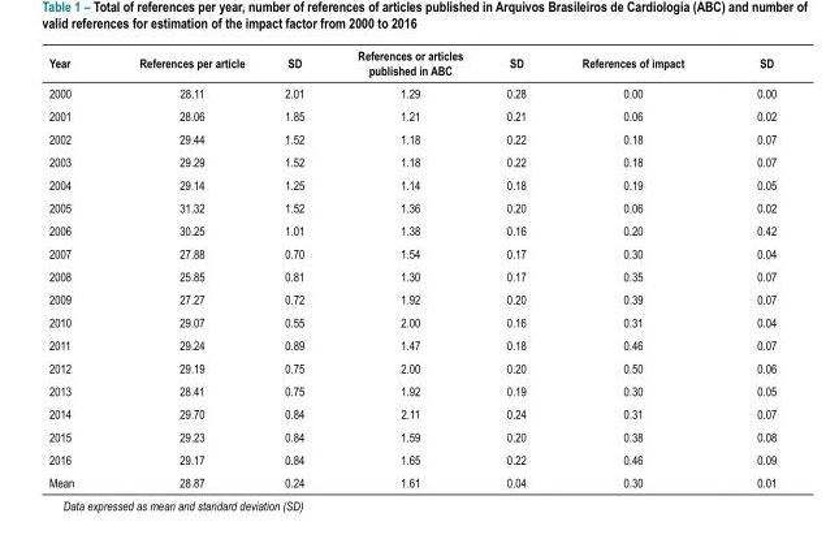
<table><thead><tr><td>Year</td><td>References per article</td><td>SD</td><td>References or articles published in ABC</td><td>SD</td><td>References of impact</td><td>SD</td></tr></thead><tbody><tr><td>2000</td><td>28.11</td><td>2.01</td><td>1.29</td><td>0.28</td><td>0.00</td><td>0.00</td></tr><tr><td>2001</td><td>28.06</td><td>1.85</td><td>1.21</td><td>0.21</td><td>0.06</td><td>0.02</td></tr><tr><td>2002</td><td>29.44</td><td>1.52</td><td>1.18</td><td>0.22</td><td>0.18</td><td>0.07</td></tr><tr><td>2003</td><td>29.29</td><td>1.52</td><td>1.18</td><td>0.22</td><td>0.18</td><td>0.07</td></tr><tr><td>2004</td><td>29.14</td><td>1.25</td><td>1.14</td><td>0.18</td><td>0.19</td><td>0.05</td></tr><tr><td>2005</td><td>31.32</td><td>1.52</td><td>1.36</td><td>0.20</td><td>0.06</td><td>0.02</td></tr><tr><td>2006</td><td>30.25</td><td>1.01</td><td>1.38</td><td>0.16</td><td>0.20</td><td>0.42</td></tr><tr><td>2007</td><td>27.88</td><td>0.70</td><td>1.54</td><td>0.17</td><td>0.30</td><td>0.04</td></tr><tr><td>2008</td><td>25.85</td><td>0.81</td><td>1.30</td><td>0.17</td><td>0.35</td><td>0.07</td></tr><tr><td>2009</td><td>27.27</td><td>0.72</td><td>1.92</td><td>0.20</td><td>0.39</td><td>0.07</td></tr><tr><td>2010</td><td>29.07</td><td>0.55</td><td>2.00</td><td>0.16</td><td>0.31</td><td>0.04</td></tr><tr><td>2011</td><td>29.24</td><td>0.89</td><td>1.47</td><td>0.18</td><td>0.46</td><td>0.07</td></tr><tr><td>2012</td><td>29.19</td><td>0.75</td><td>2.00</td><td>0.20</td><td>0.50</td><td>0.06</td></tr><tr><td>2013</td><td>28.41</td><td>0.75</td><td>1.92</td><td>0.19</td><td>0.30</td><td>0.05</td></tr><tr><td>2014</td><td>29.70</td><td>0.84</td><td>2.11</td><td>0.24</td><td>0.31</td><td>0.07</td></tr><tr><td>2015</td><td>29.23</td><td>0.84</td><td>1.59</td><td>0.20</td><td>0.38</td><td>0.08</td></tr><tr><td>2016</td><td>29.17</td><td>0.84</td><td>1.65</td><td>0.22</td><td>0.46</td><td>0.09</td></tr><tr><td>Mean</td><td>28.87</td><td>0.24</td><td>1.61</td><td>0.04</td><td>0.30</td><td>0.01</td></tr></tbody></table>